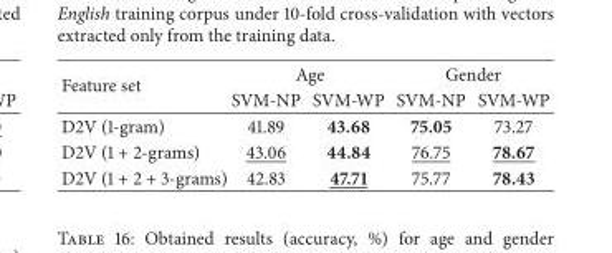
<table><thead><tr><td rowspan="2">Feature set</td><td colspan="2">Age</td><td colspan="2">Gender</td></tr><tr><td>SVM-NP</td><td>SVM-WP</td><td>SVM-NP</td><td>SVM-WP</td></tr></thead><tbody><tr><td>D2V (1-gram)</td><td>41.89</td><td>43.68</td><td>75.05</td><td>73.27</td></tr><tr><td>D2V (1 + 2-grams)</td><td>43.06</td><td>44.84</td><td>76.75</td><td>78.67</td></tr><tr><td>D2V (1 + 2 + 3-grams)</td><td>42.83</td><td>47.71</td><td>75.77</td><td>78.43</td></tr></tbody></table>